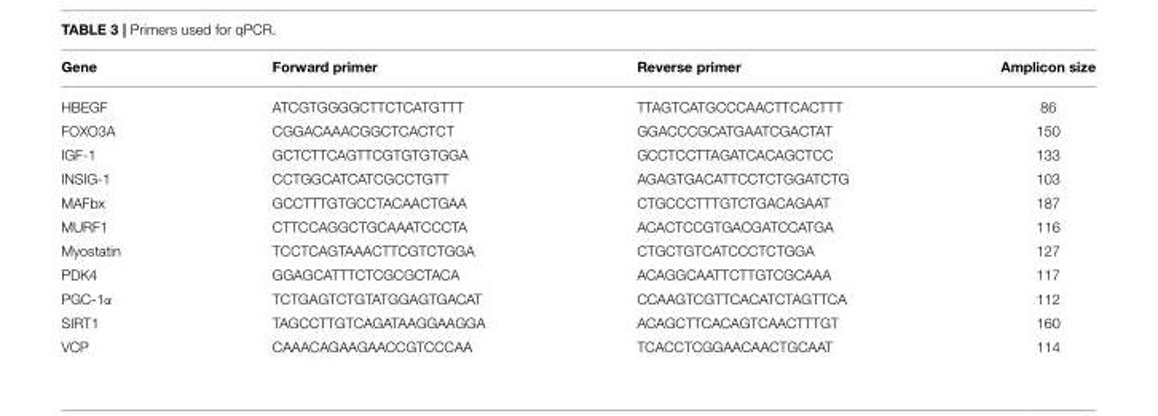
<table><thead><tr><td>Gene</td><td>Forward primer</td><td>Reverse primer</td><td>Amplicon size</td></tr></thead><tbody><tr><td>HBEGF</td><td>ATCGTGGGGCTTCTCATGTTT</td><td>TTAGTCATGCCCAACTTCACTTT</td><td>86</td></tr><tr><td>FOXO3A</td><td>CGGACAAACGGCTCACTCT</td><td>GGACCCGCATGAATCGACTAT</td><td>150</td></tr><tr><td>IGF-1</td><td>GCTCTTCAGTTCGTGTGTGGA</td><td>GCCTCCTTAGATCACAGCTCC</td><td>133</td></tr><tr><td>INSIG-1</td><td>CCTGGCATCATCGCCTGTT</td><td>AGAGTGACATTCCTCTGGATCTG</td><td>103</td></tr><tr><td>MAFbx</td><td>GCCTTTGTGCCTACAACTGAA</td><td>CTGCCCTTTGTCTGACAGAAT</td><td>187</td></tr><tr><td>MURF1</td><td>CTTCCAGGCTGCAAATCCCTA</td><td>ACACTCCGTGACGATCCATGA</td><td>116</td></tr><tr><td>Myostatin</td><td>TCCTCAGTAAACTTCGTCTGGA</td><td>CTGCTGTCATCCCTCTGGA</td><td>127</td></tr><tr><td>PDK4</td><td>GGAGCATTTCTCGCGCTACA</td><td>ACAGGCAATTCTTGTCGCAAA</td><td>117</td></tr><tr><td>PGC-1α</td><td>TCTGAGTCTGTATGGAGTGACAT</td><td>CCAAGTCGTTCACATCTAGTTCA</td><td>112</td></tr><tr><td>SIRT1</td><td>TAGCCTTGTCAGATAAGGAAGGA</td><td>ACAGCTTCACAGTCAACTTTGT</td><td>160</td></tr><tr><td>VCP</td><td>CAAACAGAAGAACCGTCCCAA</td><td>TCACCTCGGAACAACTGCAAT</td><td>114</td></tr></tbody></table>